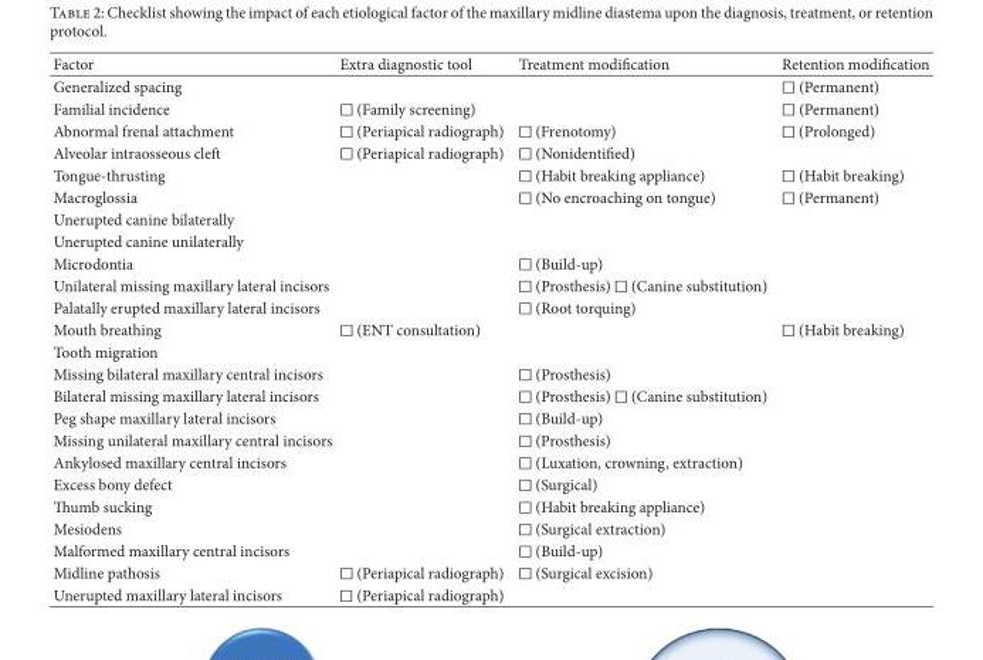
<table><thead><tr><td>Factor</td><td>Extra diagnostic tool</td><td>Treatment modification</td><td>Retention modification</td></tr></thead><tbody><tr><td>Generalized spacing</td><td></td><td></td><td>⬜ (Permanent)</td></tr><tr><td>Familial incidence</td><td>⬜ (Family screening)</td><td></td><td>⬜ (Permanent)</td></tr><tr><td>Abnormal frenal attachment</td><td>⬜ (Periapical radiograph)</td><td>⬜ (Frenotomy)</td><td>⬜ (Prolonged)</td></tr><tr><td>Alveolar intraosseous cleft</td><td>⬜ (Periapical radiograph)</td><td>⬜ (Nonidentified)</td><td></td></tr><tr><td>Tongue-thrusting</td><td></td><td>⬜ (Habit breaking appliance)</td><td>⬜ (Habit breaking)</td></tr><tr><td>Macroglossia</td><td></td><td>⬜ (No encroaching on tongue)</td><td>⬜ (Permanent)</td></tr><tr><td colspan="4">Unerupted canine bilaterally</td></tr><tr><td colspan="4">Unerupted canine unilaterally</td></tr><tr><td>Microdontia</td><td></td><td>⬜ (Build-up)</td><td></td></tr><tr><td>Unilateral missing maxillary lateral incisors</td><td></td><td>⬜ (Prosthesis) ⬜ (Canine substitution)</td><td></td></tr><tr><td>Palatally erupted maxillary lateral incisors</td><td></td><td>⬜ (Root torquing)</td><td></td></tr><tr><td>Mouth breathing</td><td>⬜ (ENT consultation)</td><td></td><td>⬜ (Habit breaking)</td></tr><tr><td colspan="4">Tooth migration</td></tr><tr><td>Missing bilateral maxillary central incisors</td><td></td><td>⬜ (Prosthesis)</td><td></td></tr><tr><td>Bilateral missing maxillary lateral incisors</td><td></td><td>⬜ (Prosthesis) ⬜ (Canine substitution)</td><td></td></tr><tr><td>Peg shape maxillary lateral incisors</td><td></td><td>⬜ (Build-up)</td><td></td></tr><tr><td>Missing unilateral maxillary central incisors</td><td></td><td>⬜ (Prosthesis)</td><td></td></tr><tr><td>Ankylosed maxillary central incisors</td><td></td><td>⬜ (Luxation, crowning, extraction)</td><td></td></tr><tr><td>Excess bony defect</td><td></td><td>⬜ (Surgical)</td><td></td></tr><tr><td>Thumb sucking</td><td></td><td>⬜ (Habit breaking appliance)</td><td></td></tr><tr><td>Mesiodens</td><td></td><td>⬜ (Surgical extraction)</td><td></td></tr><tr><td>Malformed maxillary central incisors</td><td></td><td>⬜ (Build-up)</td><td></td></tr><tr><td>Midline pathosis</td><td>⬜ (Periapical radiograph)</td><td>⬜ (Surgical excision)</td><td></td></tr><tr><td>Unerupted maxillary lateral incisors</td><td>⬜ (Periapical radiograph)</td><td></td><td></td></tr></tbody></table>